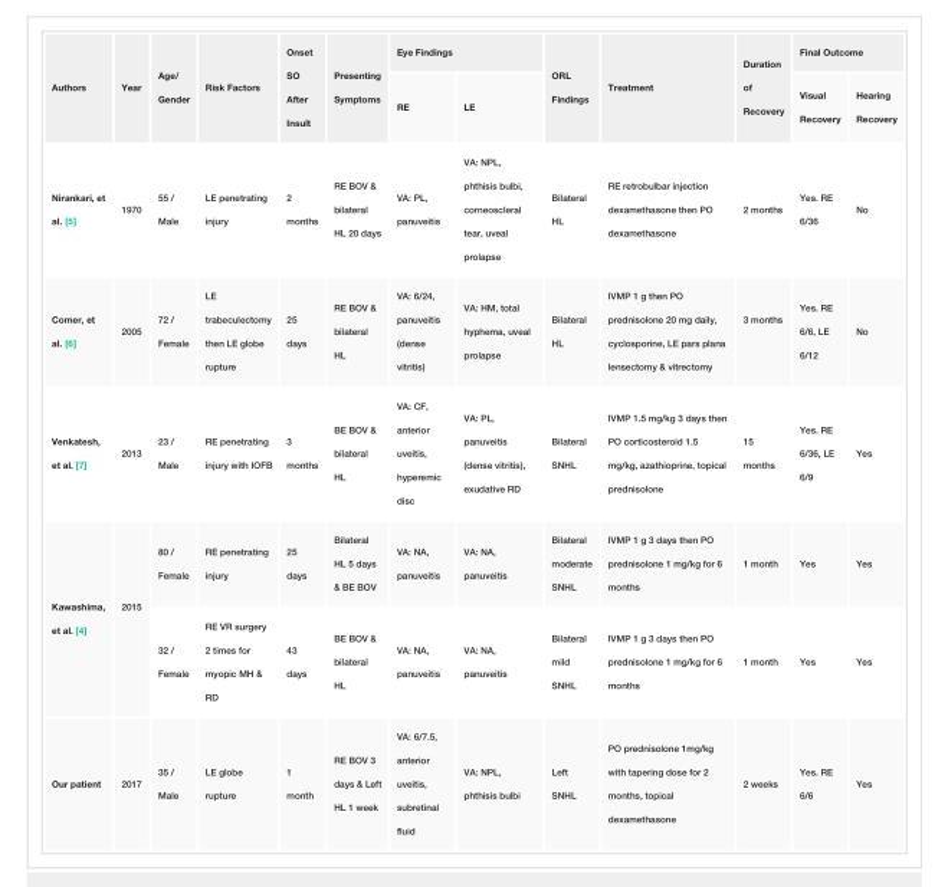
<table><tbody><tr><td rowspan="2">Authors</td><td rowspan="2">Year</td><td rowspan="2">Age/ Gender</td><td rowspan="2">Risk Factors</td><td rowspan="2">Onset SO After Insult</td><td rowspan="2">Presenting Symptoms</td><td colspan="2">Eye Findings</td><td rowspan="2">ORL Findings</td><td rowspan="2">Treatment</td><td rowspan="2">Duration of Recovery</td><td colspan="2">Final Outcome</td></tr><tr><td>RE</td><td>LE</td><td>Visual Recovery</td><td>Hearing Recovery</td></tr><tr><td>Nirankari, et al. [5]</td><td>1970</td><td>55 / Male</td><td>LE penetrating injury</td><td>2 months</td><td>RE BOV &amp; bilateral HL 20 days</td><td>VA: PL, panuveitis</td><td>VA: NPL, phthisis bulbi, corneoscleral tear, uveal prolapse</td><td>Bilateral HL</td><td>RE retrobulbar injection dexamethasone then PO dexamethasone</td><td>2 months</td><td>Yes. RE 6/36</td><td>No</td></tr><tr><td>Comer, et al. [6]</td><td>2005</td><td>72 / Female</td><td>LE trabeculectomy then LE globe rupture</td><td>25 days</td><td>RE BOV &amp; bilateral HL</td><td>VA: 6/24, panuveitis (dense vitritis)</td><td>VA: HM, total hyphema, uveal prolapse</td><td>Bilateral HL</td><td>IVMP 1 g then PO prednisolone 20 mg daily, cyclosporine, LE pars plana lensectomy &amp; vitrectomy</td><td>3 months</td><td>Yes. RE 6/6, LE 6/12</td><td>No</td></tr><tr><td>Venkatesh, et al. [7]</td><td>2013</td><td>23 / Male</td><td>RE penetrating injury with IOFB</td><td>3 months</td><td>BE BOV &amp; bilateral HL</td><td>VA: CF, anterior uveitis, hyperemic disc</td><td>VA: PL, panuveitis (dense vitritis), exudative RD</td><td>Bilateral SNHL</td><td>IVMP 1.5 mg/kg 3 days then PO corticosteroid 1.5 mg/kg, azathioprine, topical prednisolone</td><td>15 months</td><td>Yes. RE 6/36, LE 6/9</td><td>Yes</td></tr><tr><td rowspan="2">Kawashima, et al. [4]</td><td rowspan="2">2015</td><td>80 / Female</td><td>RE penetrating injury</td><td>25 days</td><td>Bilateral HL 5 days &amp; BE BOV</td><td>VA: NA, panuveitis</td><td>VA: NA, panuveitis</td><td>Bilateral moderate SNHL</td><td>IVMP 1 g 3 days then PO prednisolone 1 mg/kg for 6 months</td><td>1 month</td><td>Yes</td><td>Yes</td></tr><tr><td>32 / Female</td><td>RE VR surgery 2 times for myopic MH &amp; RD</td><td>43 days</td><td>BE BOV &amp; bilateral HL</td><td>VA: NA, panuveitis</td><td>VA: NA, panuveitis</td><td>Bilateral mild SNHL</td><td>IVMP 1 g 3 days then PO prednisolone 1 mg/kg for 6 months</td><td>1 month</td><td>Yes</td><td>Yes</td></tr><tr><td>Our patient</td><td>2017</td><td>35 / Male</td><td>LE globe rupture</td><td>1 month</td><td>RE BOV 3 days &amp; Left HL 1 week</td><td>VA: 6/7.5, anterior uveitis, subretinal fluid</td><td>VA: NPL, phthisis bulbi</td><td>Left SNHL</td><td>PO prednisolone 1mg/kg with tapering dose for 2 months, topical dexamethasone</td><td>2 weeks</td><td>Yes. RE 6/6</td><td>Yes</td></tr></tbody></table>